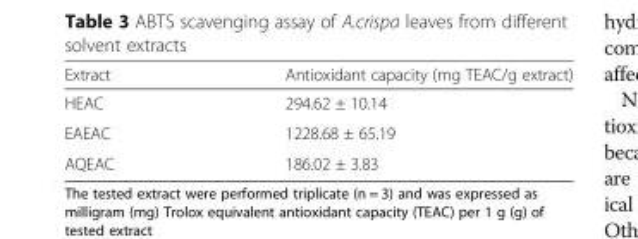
<table><thead><tr><td>Extract</td><td>Antioxidant capacity (mg TEAC/g extract)</td></tr></thead><tbody><tr><td>HEAC</td><td>294.62 ± 10.14</td></tr><tr><td>EAEAC</td><td>1228.68 ± 65.19</td></tr><tr><td>AQEAC</td><td>186.02 ± 3.83</td></tr></tbody></table>